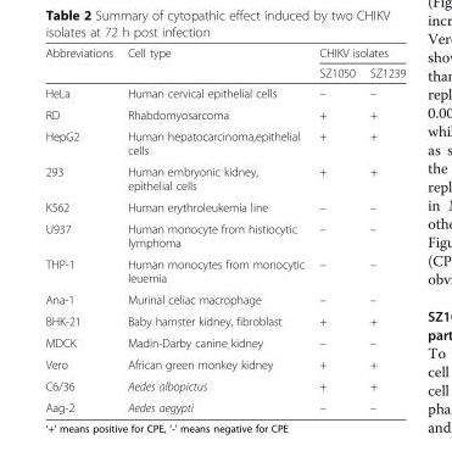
<table><thead><tr><td rowspan="2">Abbreviations</td><td rowspan="2">Cell type</td><td colspan="2">CHIKV isolates</td></tr><tr><td>SZ1050</td><td>SZ1239</td></tr></thead><tbody><tr><td>HeLa</td><td>Human cervical epithelial cells</td><td>–</td><td>–</td></tr><tr><td>RD</td><td>Rhabdomyosarcoma</td><td>+</td><td>+</td></tr><tr><td>HepG2</td><td>Human hepatocarcinoma,epithelial cells</td><td>+</td><td>+</td></tr><tr><td>293</td><td>Human embryonic kidney, epithelial cells</td><td>+</td><td>+</td></tr><tr><td>K562</td><td>Human erythroleukemia line</td><td>–</td><td>–</td></tr><tr><td>U937</td><td>Human monocyte from histiocytic lymphoma</td><td>–</td><td>–</td></tr><tr><td>THP-1</td><td>Human monocytes from monocytic leuemia</td><td>–</td><td>–</td></tr><tr><td>Ana-1</td><td>Murinal celiac macrophage</td><td>–</td><td>–</td></tr><tr><td>BHK-21</td><td>Baby hamster kidney, fibroblast</td><td>+</td><td>+</td></tr><tr><td>MDCK</td><td>Madin-Darby canine kidney</td><td>–</td><td>–</td></tr><tr><td>Vero</td><td>African green monkey kidney</td><td>+</td><td>+</td></tr><tr><td>C6/36</td><td>Aedes albopictus</td><td>+</td><td>+</td></tr><tr><td>Aag-2</td><td>Aedes aegypti</td><td>–</td><td>–</td></tr></tbody></table>